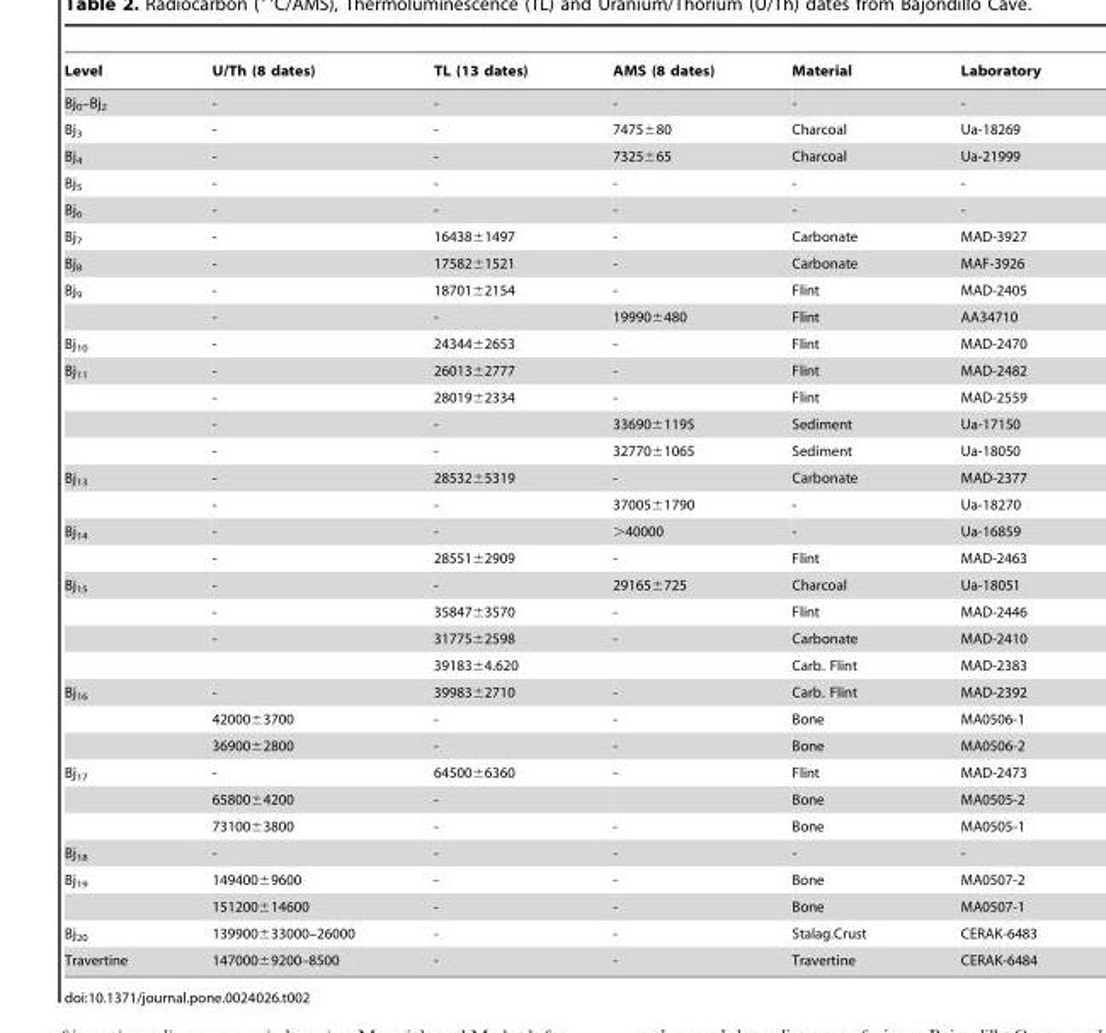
<table><thead><tr><td>Level</td><td>U/Th (8 dates)</td><td>TL (13 dates)</td><td>AMS (8 dates)</td><td>Material</td><td>Laboratory</td></tr></thead><tbody><tr><td>Bj<sub>0</sub>–Bj<sub>2</sub></td><td>-</td><td>-</td><td>-</td><td>-</td><td>-</td></tr><tr><td>Bj<sub>3</sub></td><td>-</td><td>-</td><td>7475±80</td><td>Charcoal</td><td>Ua-18269</td></tr><tr><td>Bj<sub>4</sub></td><td>-</td><td>-</td><td>7325±65</td><td>Charcoal</td><td>Ua-21999</td></tr><tr><td>Bj<sub>5</sub></td><td>-</td><td>-</td><td>-</td><td>-</td><td>-</td></tr><tr><td>Bj<sub>6</sub></td><td>-</td><td>-</td><td>-</td><td>-</td><td>-</td></tr><tr><td>Bj<sub>7</sub></td><td>-</td><td>16438±1497</td><td>-</td><td>Carbonate</td><td>MAD-3927</td></tr><tr><td>Bj<sub>8</sub></td><td>-</td><td>17582±1521</td><td>-</td><td>Carbonate</td><td>MAF-3926</td></tr><tr><td rowspan="2">Bj<sub>9</sub></td><td>-</td><td>18701±2154</td><td>-</td><td>Flint</td><td>MAD-2405</td></tr><tr><td>-</td><td>-</td><td>19990±480</td><td>Flint</td><td>AA34710</td></tr><tr><td>Bj<sub>10</sub></td><td>-</td><td>24344±2653</td><td>-</td><td>Flint</td><td>MAD-2470</td></tr><tr><td rowspan="4">Bj<sub>11</sub></td><td>-</td><td>26013±2777</td><td>-</td><td>Flint</td><td>MAD-2482</td></tr><tr><td>-</td><td>28019±2334</td><td>-</td><td>Flint</td><td>MAD-2559</td></tr><tr><td>-</td><td>-</td><td>33690±1195</td><td>Sediment</td><td>Ua-17150</td></tr><tr><td>-</td><td>-</td><td>32770±1065</td><td>Sediment</td><td>Ua-18050</td></tr><tr><td rowspan="2">Bj<sub>13</sub></td><td>-</td><td>28532±5319</td><td>-</td><td>Carbonate</td><td>MAD-2377</td></tr><tr><td>-</td><td>-</td><td>37005±1790</td><td>-</td><td>Ua-18270</td></tr><tr><td rowspan="2">Bj<sub>14</sub></td><td>-</td><td>-</td><td>&gt;40000</td><td>-</td><td>Ua-16859</td></tr><tr><td>-</td><td>28551±2909</td><td>-</td><td>Flint</td><td>MAD-2463</td></tr><tr><td rowspan="4">Bj<sub>15</sub></td><td>-</td><td>-</td><td>29165±725</td><td>Charcoal</td><td>Ua-18051</td></tr><tr><td>-</td><td>35847±3570</td><td>-</td><td>Flint</td><td>MAD-2446</td></tr><tr><td>-</td><td>31775±2598</td><td>-</td><td>Carbonate</td><td>MAD-2410</td></tr><tr><td></td><td>39183±4.620</td><td></td><td>Carb. Flint</td><td>MAD-2383</td></tr><tr><td rowspan="3">Bj<sub>16</sub></td><td>-</td><td>39983±2710</td><td>-</td><td>Carb. Flint</td><td>MAD-2392</td></tr><tr><td>42000±3700</td><td>-</td><td>-</td><td>Bone</td><td>MA0506-1</td></tr><tr><td>36900±2800</td><td>-</td><td>-</td><td>Bone</td><td>MA0506-2</td></tr><tr><td rowspan="3">Bj<sub>17</sub></td><td>-</td><td>64500±6360</td><td>-</td><td>Flint</td><td>MAD-2473</td></tr><tr><td>65800±4200</td><td>-</td><td></td><td>Bone</td><td>MA0505-2</td></tr><tr><td>73100±3800</td><td>-</td><td>-</td><td>Bone</td><td>MA0505-1</td></tr><tr><td>Bj<sub>18</sub></td><td>-</td><td>-</td><td>-</td><td>-</td><td>-</td></tr><tr><td rowspan="2">Bj<sub>19</sub></td><td>149400±9600</td><td>-</td><td>-</td><td>Bone</td><td>MA0507-2</td></tr><tr><td>151200±14600</td><td>-</td><td>-</td><td>Bone</td><td>MA0507-1</td></tr><tr><td>Bj<sub>20</sub></td><td>139900±33000–26000</td><td>-</td><td>-</td><td>Stalag.Crust</td><td>CERAK-6483</td></tr><tr><td>Travertine</td><td>147000±9200–8500</td><td>-</td><td>-</td><td>Travertine</td><td>CERAK-6484</td></tr></tbody></table>